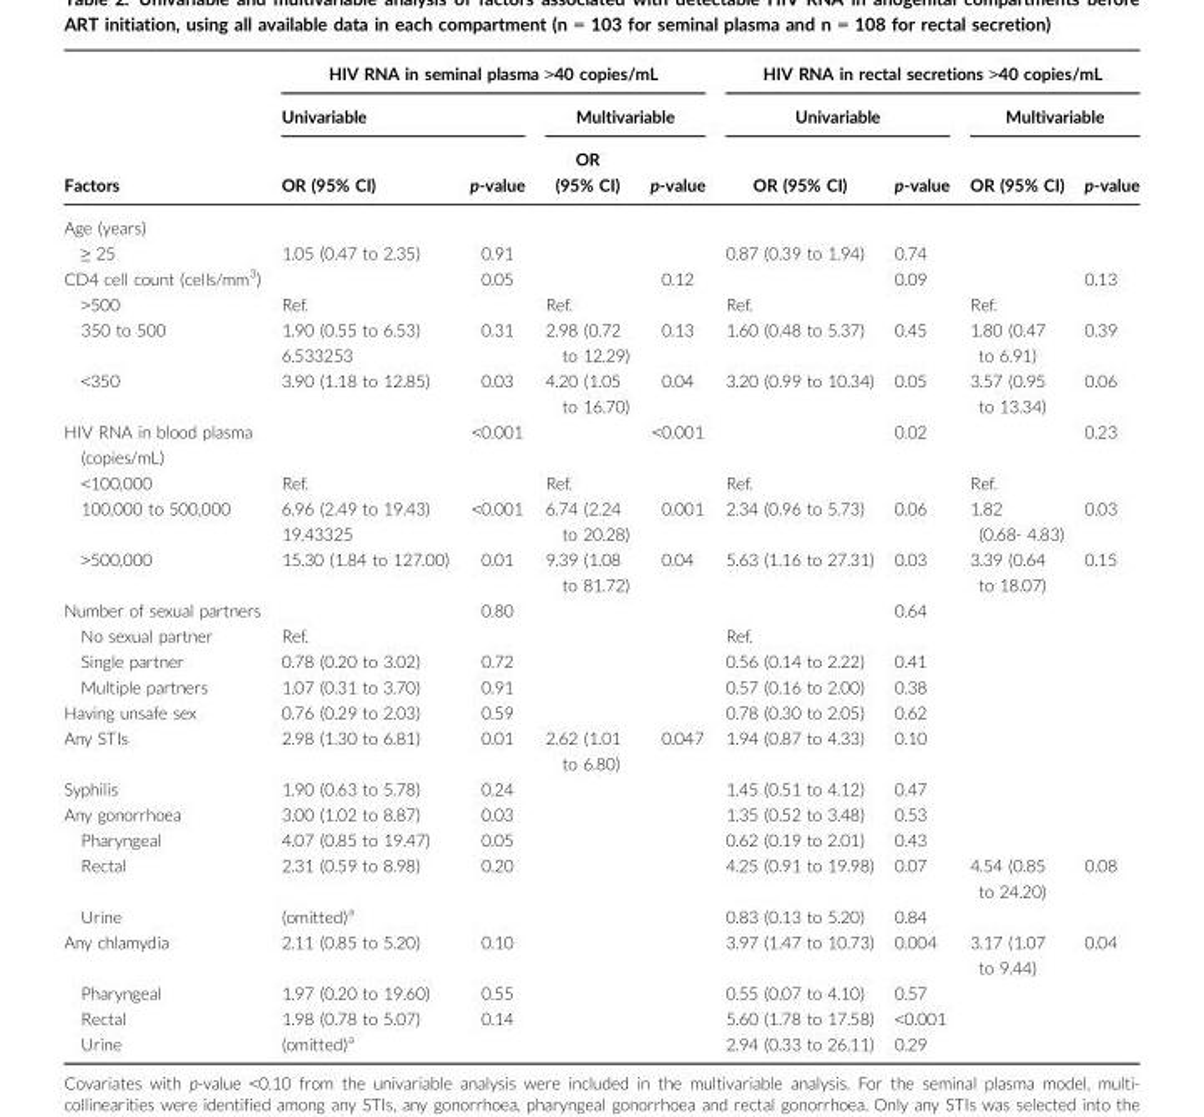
<table><thead><tr><td rowspan="3">Factors</td><td colspan="4">HIV RNA in seminal plasma &gt;40 copies/mL</td><td colspan="4">HIV RNA in rectal secretions &gt;40 copies/mL</td></tr><tr><td colspan="2">Univariable</td><td colspan="2">Multivariable</td><td colspan="2">Univariable</td><td colspan="2">Multivariable</td></tr><tr><td>OR (95% CI)</td><td>p-value</td><td>OR (95% CI)</td><td>p-value</td><td>OR (95% CI)</td><td>p-value</td><td>OR (95% CI)</td><td>p-value</td></tr></thead><tbody><tr><td colspan="9">Age (years)</td></tr><tr><td>≥ 25</td><td>1.05 (0.47 to 2.35)</td><td>0.91</td><td></td><td></td><td>0.87 (0.39 to 1.94)</td><td>0.74</td><td></td><td></td></tr><tr><td>CD4 cell count (cells/mm<sup>3</sup>)</td><td></td><td>0.05</td><td></td><td>0.12</td><td></td><td>0.09</td><td></td><td>0.13</td></tr><tr><td>&gt;500</td><td>Ref.</td><td></td><td>Ref.</td><td></td><td>Ref.</td><td></td><td>Ref.</td><td></td></tr><tr><td>350 to 500</td><td>1.90 (0.55 to 6.53) 6.533253</td><td>0.31</td><td>2.98 (0.72 to 12.29)</td><td>0.13</td><td>1.60 (0.48 to 5.37)</td><td>0.45</td><td>1.80 (0.47 to 6.91)</td><td>0.39</td></tr><tr><td>&lt;350</td><td>3.90 (1.18 to 12.85)</td><td>0.03</td><td>4.20 (1.05 to 16.70)</td><td>0.04</td><td>3.20 (0.99 to 10.34)</td><td>0.05</td><td>3.57 (0.95 to 13.34)</td><td>0.06</td></tr><tr><td>HIV RNA in blood plasma (copies/mL)</td><td></td><td>&lt;0.001</td><td></td><td>&lt;0.001</td><td></td><td>0.02</td><td></td><td>0.23</td></tr><tr><td>&lt;100,000</td><td>Ref.</td><td></td><td>Ref.</td><td></td><td>Ref.</td><td></td><td>Ref.</td><td></td></tr><tr><td>100,000 to 500,000</td><td>6.96 (2.49 to 19.43) 19.43325</td><td>&lt;0.001</td><td>6.74 (2.24 to 20.28)</td><td>0.001</td><td>2.34 (0.96 to 5.73)</td><td>0.06</td><td>1.82 (0.68- 4.83)</td><td>0.03</td></tr><tr><td>&gt;500,000</td><td>15.30 (1.84 to 127.00)</td><td>0.01</td><td>9.39 (1.08 to 81.72)</td><td>0.04</td><td>5.63 (1.16 to 27.31)</td><td>0.03</td><td>3.39 (0.64 to 18.07)</td><td>0.15</td></tr><tr><td>Number of sexual partners</td><td></td><td>0.80</td><td></td><td></td><td></td><td>0.64</td><td></td><td></td></tr><tr><td>No sexual partner</td><td>Ref.</td><td></td><td></td><td></td><td>Ref.</td><td></td><td></td><td></td></tr><tr><td>Single partner</td><td>0.78 (0.20 to 3.02)</td><td>0.72</td><td></td><td></td><td>0.56 (0.14 to 2.22)</td><td>0.41</td><td></td><td></td></tr><tr><td>Multiple partners</td><td>1.07 (0.31 to 3.70)</td><td>0.91</td><td></td><td></td><td>0.57 (0.16 to 2.00)</td><td>0.38</td><td></td><td></td></tr><tr><td>Having unsafe sex</td><td>0.76 (0.29 to 2.03)</td><td>0.59</td><td></td><td></td><td>0.78 (0.30 to 2.05)</td><td>0.62</td><td></td><td></td></tr><tr><td>Any STIs</td><td>2.98 (1.30 to 6.81)</td><td>0.01</td><td>2.62 (1.01 to 6.80)</td><td>0.047</td><td>1.94 (0.87 to 4.33)</td><td>0.10</td><td></td><td></td></tr><tr><td>Syphilis</td><td>1.90 (0.63 to 5.78)</td><td>0.24</td><td></td><td></td><td>1.45 (0.51 to 4.12)</td><td>0.47</td><td></td><td></td></tr><tr><td>Any gonorrhoea</td><td>3.00 (1.02 to 8.87)</td><td>0.03</td><td></td><td></td><td>1.35 (0.52 to 3.48)</td><td>0.53</td><td></td><td></td></tr><tr><td>Pharyngeal</td><td>4.07 (0.85 to 19.47)</td><td>0.05</td><td></td><td></td><td>0.62 (0.19 to 2.01)</td><td>0.43</td><td></td><td></td></tr><tr><td>Rectal</td><td>2.31 (0.59 to 8.98)</td><td>0.20</td><td></td><td></td><td>4.25 (0.91 to 19.98)</td><td>0.07</td><td>4.54 (0.85 to 24.20)</td><td>0.08</td></tr><tr><td>Urine</td><td>(omitted)<sup>a</sup></td><td></td><td></td><td></td><td>0.83 (0.13 to 5.20)</td><td>0.84</td><td></td><td></td></tr><tr><td>Any chlamydia</td><td>2.11 (0.85 to 5.20)</td><td>0.10</td><td></td><td></td><td>3.97 (1.47 to 10.73)</td><td>0.004</td><td>3.17 (1.07 to 9.44)</td><td>0.04</td></tr><tr><td>Pharyngeal</td><td>1.97 (0.20 to 19.60)</td><td>0.55</td><td></td><td></td><td>0.55 (0.07 to 4.10)</td><td>0.57</td><td></td><td></td></tr><tr><td>Rectal</td><td>1.98 (0.78 to 5.07)</td><td>0.14</td><td></td><td></td><td>5.60 (1.78 to 17.58)</td><td>&lt;0.001</td><td></td><td></td></tr><tr><td>Urine</td><td>(omitted)<sup>a</sup></td><td></td><td></td><td></td><td>2.94 (0.33 to 26.11)</td><td>0.29</td><td></td><td></td></tr></tbody></table>